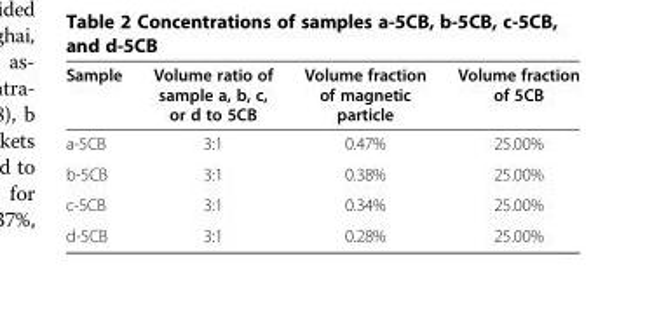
<table><thead><tr><td>Sample</td><td>Volume ratio of sample a, b, c, or d to 5CB</td><td>Volume fraction of magnetic particle</td><td>Volume fraction of 5CB</td></tr></thead><tbody><tr><td>a-5CB</td><td>3:1</td><td>0.47%</td><td>25.00%</td></tr><tr><td>b-5CB</td><td>3:1</td><td>0.38%</td><td>25.00%</td></tr><tr><td>c-5CB</td><td>3:1</td><td>0.34%</td><td>25.00%</td></tr><tr><td>d-5CB</td><td>3:1</td><td>0.28%</td><td>25.00%</td></tr></tbody></table>